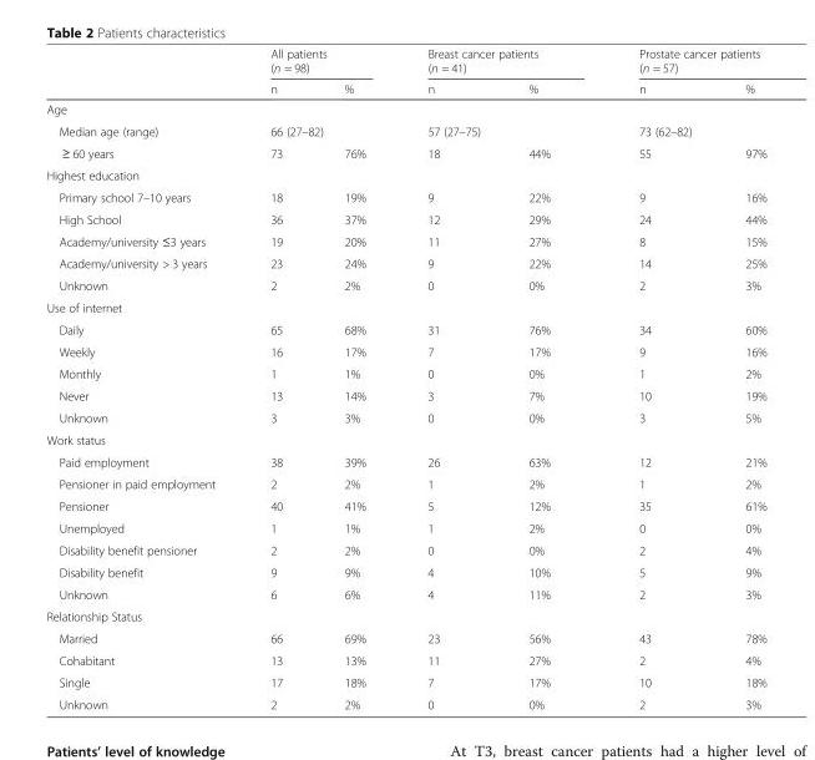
<table><thead><tr><td rowspan="2"></td><td colspan="2">All patients (n = 98)</td><td colspan="2">Breast cancer patients (n = 41)</td><td colspan="2">Prostate cancer patients (n = 57)</td></tr><tr><td>n</td><td>%</td><td>n</td><td>%</td><td>n</td><td>%</td></tr></thead><tbody><tr><td colspan="7">Age</td></tr><tr><td>Median age (range)</td><td colspan="2">66 (27–82)</td><td colspan="2">57 (27–75)</td><td colspan="2">73 (62–82)</td></tr><tr><td>≥ 60 years</td><td>73</td><td>76%</td><td>18</td><td>44%</td><td>55</td><td>97%</td></tr><tr><td colspan="7">Highest education</td></tr><tr><td>Primary school 7–10 years</td><td>18</td><td>19%</td><td>9</td><td>22%</td><td>9</td><td>16%</td></tr><tr><td>High School</td><td>36</td><td>37%</td><td>12</td><td>29%</td><td>24</td><td>44%</td></tr><tr><td>Academy/university ≤3 years</td><td>19</td><td>20%</td><td>11</td><td>27%</td><td>8</td><td>15%</td></tr><tr><td>Academy/university &gt; 3 years</td><td>23</td><td>24%</td><td>9</td><td>22%</td><td>14</td><td>25%</td></tr><tr><td>Unknown</td><td>2</td><td>2%</td><td>0</td><td>0%</td><td>2</td><td>3%</td></tr><tr><td colspan="7">Use of internet</td></tr><tr><td>Daily</td><td>65</td><td>68%</td><td>31</td><td>76%</td><td>34</td><td>60%</td></tr><tr><td>Weekly</td><td>16</td><td>17%</td><td>7</td><td>17%</td><td>9</td><td>16%</td></tr><tr><td>Monthly</td><td>1</td><td>1%</td><td>0</td><td>0%</td><td>1</td><td>2%</td></tr><tr><td>Never</td><td>13</td><td>14%</td><td>3</td><td>7%</td><td>10</td><td>19%</td></tr><tr><td>Unknown</td><td>3</td><td>3%</td><td>0</td><td>0%</td><td>3</td><td>5%</td></tr><tr><td colspan="7">Work status</td></tr><tr><td>Paid employment</td><td>38</td><td>39%</td><td>26</td><td>63%</td><td>12</td><td>21%</td></tr><tr><td>Pensioner in paid employment</td><td>2</td><td>2%</td><td>1</td><td>2%</td><td>1</td><td>2%</td></tr><tr><td>Pensioner</td><td>40</td><td>41%</td><td>5</td><td>12%</td><td>35</td><td>61%</td></tr><tr><td>Unemployed</td><td>1</td><td>1%</td><td>1</td><td>2%</td><td>0</td><td>0%</td></tr><tr><td>Disability benefit pensioner</td><td>2</td><td>2%</td><td>0</td><td>0%</td><td>2</td><td>4%</td></tr><tr><td>Disability benefit</td><td>9</td><td>9%</td><td>4</td><td>10%</td><td>5</td><td>9%</td></tr><tr><td>Unknown</td><td>6</td><td>6%</td><td>4</td><td>11%</td><td>2</td><td>3%</td></tr><tr><td colspan="7">Relationship Status</td></tr><tr><td>Married</td><td>66</td><td>69%</td><td>23</td><td>56%</td><td>43</td><td>78%</td></tr><tr><td>Cohabitant</td><td>13</td><td>13%</td><td>11</td><td>27%</td><td>2</td><td>4%</td></tr><tr><td>Single</td><td>17</td><td>18%</td><td>7</td><td>17%</td><td>10</td><td>18%</td></tr><tr><td>Unknown</td><td>2</td><td>2%</td><td>0</td><td>0%</td><td>2</td><td>3%</td></tr></tbody></table>